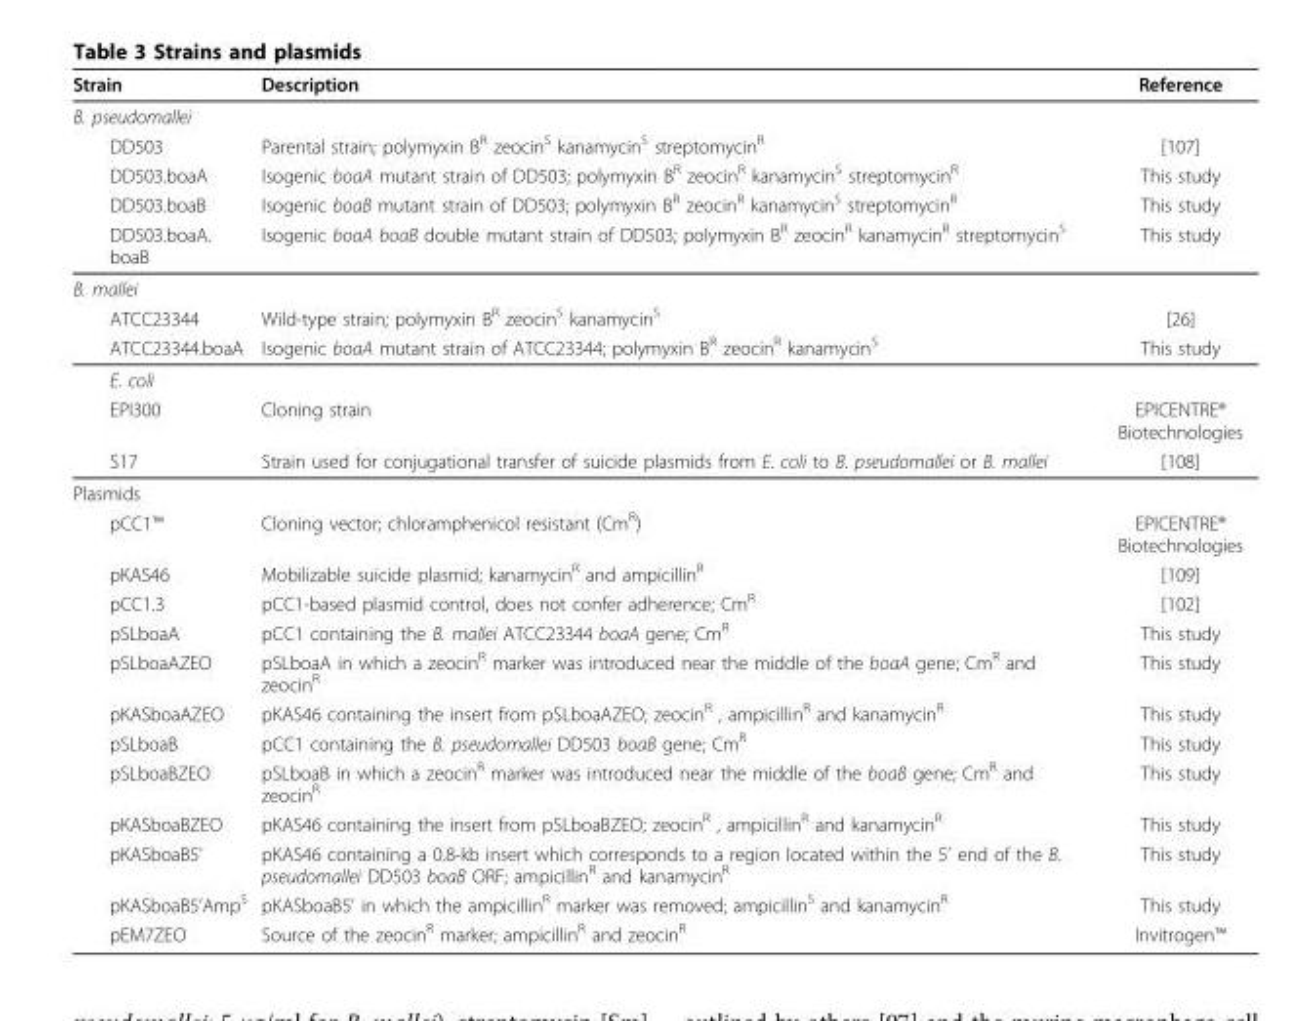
<table><thead><tr><td>Strain</td><td>Description</td><td>Reference</td></tr></thead><tbody><tr><td colspan="3">B. pseudomallei</td></tr><tr><td>DD503</td><td>Parental strain; polymyxin B<sup>R</sup> zeocin<sup>S</sup> kanamycin<sup>S</sup> streptomycin<sup>R</sup></td><td>[107]</td></tr><tr><td>DD503.boaA</td><td>Isogenic boaA mutant strain of DD503; polymyxin B<sup>R</sup> zeocin<sup>R</sup> kanamycin<sup>S</sup> streptomycin<sup>R</sup></td><td>This study</td></tr><tr><td>DD503.boaB</td><td>Isogenic boaB mutant strain of DD503; polymyxin B<sup>R</sup> zeocin<sup>R</sup> kanamycin<sup>S</sup> streptomycin<sup>R</sup></td><td>This study</td></tr><tr><td>DD503.boaA. boaB</td><td>Isogenic boaA boaB double mutant strain of DD503; polymyxin B<sup>R</sup> zeocin<sup>R</sup> kanamycin<sup>R</sup> streptomycin<sup>S</sup></td><td>This study</td></tr><tr><td colspan="3">B. mallei</td></tr><tr><td>ATCC23344</td><td>Wild-type strain; polymyxin B<sup>R</sup> zeocin<sup>S</sup> kanamycin<sup>S</sup></td><td>[26]</td></tr><tr><td>ATCC23344.boaA</td><td>Isogenic boaA mutant strain of ATCC23344; polymyxin B<sup>R</sup> zeocin<sup>R</sup> kanamycin<sup>S</sup></td><td>This study</td></tr><tr><td colspan="3">E. coli</td></tr><tr><td>EPI300</td><td>Cloning strain</td><td>EPICENTRE<sup>®</sup> Biotechnologies</td></tr><tr><td>S17</td><td>Strain used for conjugational transfer of suicide plasmids from E. coli to B. pseudomallei or B. mallei</td><td>[108]</td></tr><tr><td colspan="3">Plasmids</td></tr><tr><td>pCC1™</td><td>Cloning vector; chloramphenicol resistant (Cm<sup>R</sup>)</td><td>EPICENTRE<sup>®</sup> Biotechnologies</td></tr><tr><td>pKAS46</td><td>Mobilizable suicide plasmid; kanamycin<sup>R</sup> and ampicillin<sup>R</sup></td><td>[109]</td></tr><tr><td>pCC1.3</td><td>pCC1-based plasmid control, does not confer adherence; Cm<sup>R</sup></td><td>[102]</td></tr><tr><td>pSLboaA</td><td>pCC1 containing the B. mallei ATCC23344 boaA gene; Cm<sup>R</sup></td><td>This study</td></tr><tr><td>pSLboaAZEO</td><td>pSLboaA in which a zeocin<sup>R</sup> marker was introduced near the middle of the boaA gene; Cm<sup>R</sup> and zeocin<sup>R</sup></td><td>This study</td></tr><tr><td>pKASboaAZEO</td><td>pKAS46 containing the insert from pSLboaAZEO; zeocin<sup>R</sup> , ampicillin<sup>R</sup> and kanamycin<sup>R</sup></td><td>This study</td></tr><tr><td>pSLboaB</td><td>pCC1 containing the B. pseudomallei DD503 boaB gene; Cm<sup>R</sup></td><td>This study</td></tr><tr><td>pSLboaBZEO</td><td>pSLboaB in which a zeocin<sup>R</sup> marker was introduced near the middle of the boaB gene; Cm<sup>R</sup> and zeocin<sup>R</sup></td><td>This study</td></tr><tr><td>pKASboaBZEO</td><td>pKAS46 containing the insert from pSLboaBZEO; zeocin<sup>R</sup> , ampicillin<sup>R</sup> and kanamycin<sup>R</sup></td><td>This study</td></tr><tr><td>pKASboaB5’</td><td>pKAS46 containing a 0.8-kb insert which corresponds to a region located within the 5’ end of the B. pseudomallei DD503 boaB ORF; ampicillin<sup>R</sup> and kanamycin<sup>R</sup></td><td>This study</td></tr><tr><td>pKASboaB5’Amp<sup>S</sup></td><td>pKASboaB5’ in which the ampicillin<sup>R</sup> marker was removed; ampicillin<sup>S</sup> and kanamycin<sup>R</sup></td><td>This study</td></tr><tr><td>pEM7ZEO</td><td>Source of the zeocin<sup>R</sup> marker; ampicillin<sup>R</sup> and zeocin<sup>R</sup></td><td>Invitrogen™</td></tr></tbody></table>